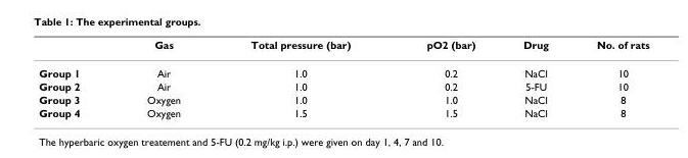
<table><thead><tr><td></td><td>Gas</td><td>Total pressure (bar)</td><td>pO2 (bar)</td><td>Drug</td><td>No. of rats</td></tr></thead><tbody><tr><td>Group 1</td><td>Air</td><td>1.0</td><td>0.2</td><td>NaCl</td><td>10</td></tr><tr><td>Group 2</td><td>Air</td><td>1.0</td><td>0.2</td><td>5-FU</td><td>10</td></tr><tr><td>Group 3</td><td>Oxygen</td><td>1.0</td><td>1.0</td><td>NaCl</td><td>8</td></tr><tr><td>Group 4</td><td>Oxygen</td><td>1.5</td><td>1.5</td><td>NaCl</td><td>8</td></tr></tbody></table>